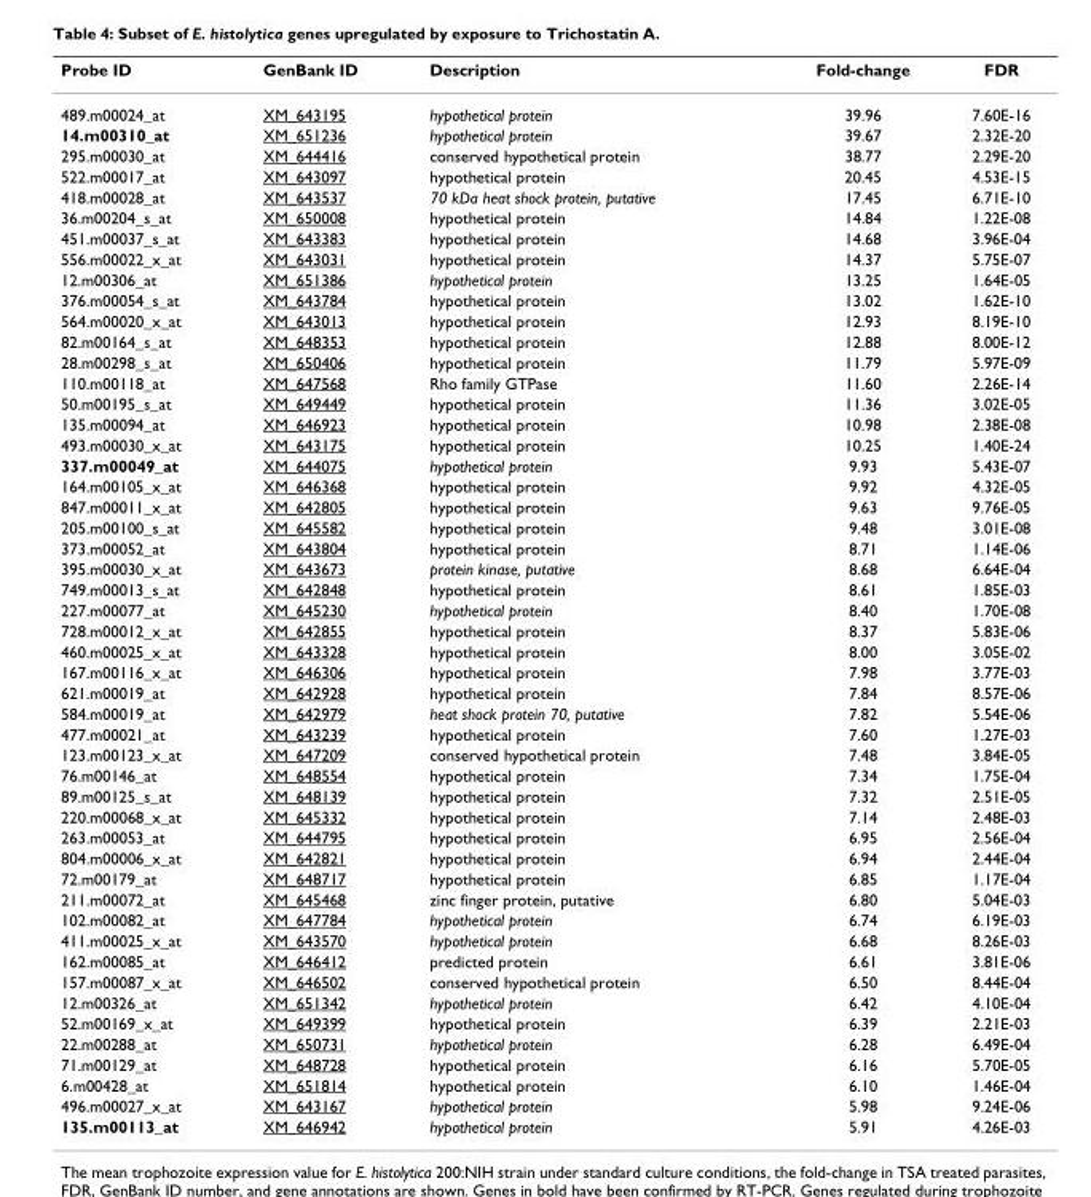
<table><thead><tr><td>Probe ID</td><td>GenBank ID</td><td>Description</td><td>Fold-change</td><td>FDR</td></tr></thead><tbody><tr><td>489.m00024_at</td><td>XM_643195</td><td>hypothetical protein</td><td>39.96</td><td>7.60E-16</td></tr><tr><td>14.m00310_at</td><td>XM_651236</td><td>hypothetical protein</td><td>39.67</td><td>2.32E-20</td></tr><tr><td>295.m00030_at</td><td>XM_644416</td><td>conserved hypothetical protein</td><td>38.77</td><td>2.29E-20</td></tr><tr><td>522.m00017_at</td><td>XM_643097</td><td>hypothetical protein</td><td>20.45</td><td>4.53E-15</td></tr><tr><td>418.m00028_at</td><td>XM_643537</td><td>70 kDa heat shock protein, putative</td><td>17.45</td><td>6.71E-10</td></tr><tr><td>36.m00204_s_at</td><td>XM_650008</td><td>hypothetical protein</td><td>14.84</td><td>1.22E-08</td></tr><tr><td>451.m00037_s_at</td><td>XM_643383</td><td>hypothetical protein</td><td>14.68</td><td>3.96E-04</td></tr><tr><td>556.m00022_x_at</td><td>XM_643031</td><td>hypothetical protein</td><td>14.37</td><td>5.75E-07</td></tr><tr><td>12.m00306_at</td><td>XM_651386</td><td>hypothetical protein</td><td>13.25</td><td>1.64E-05</td></tr><tr><td>376.m00054_s_at</td><td>XM_643784</td><td>hypothetical protein</td><td>13.02</td><td>1.62E-10</td></tr><tr><td>564.m00020_x_at</td><td>XM_643013</td><td>hypothetical protein</td><td>12.93</td><td>8.19E-10</td></tr><tr><td>82.m00164_s_at</td><td>XM_648353</td><td>hypothetical protein</td><td>12.88</td><td>8.00E-12</td></tr><tr><td>28.m00298_s_at</td><td>XM_650406</td><td>hypothetical protein</td><td>11.79</td><td>5.97E-09</td></tr><tr><td>110.m00118_at</td><td>XM_647568</td><td>Rho family GTPase</td><td>11.60</td><td>2.26E-14</td></tr><tr><td>50.m00195_s_at</td><td>XM_649449</td><td>hypothetical protein</td><td>11.36</td><td>3.02E-05</td></tr><tr><td>135.m00094_at</td><td>XM_646923</td><td>hypothetical protein</td><td>10.98</td><td>2.38E-08</td></tr><tr><td>493.m00030_x_at</td><td>XM_643175</td><td>hypothetical protein</td><td>10.25</td><td>1.40E-24</td></tr><tr><td>337.m00049_at</td><td>XM_644075</td><td>hypothetical protein</td><td>9.93</td><td>5.43E-07</td></tr><tr><td>164.m00105_x_at</td><td>XM_646368</td><td>hypothetical protein</td><td>9.92</td><td>4.32E-05</td></tr><tr><td>847.m00011_x_at</td><td>XM_642805</td><td>hypothetical protein</td><td>9.63</td><td>9.76E-05</td></tr><tr><td>205.m00100_s_at</td><td>XM_645582</td><td>hypothetical protein</td><td>9.48</td><td>3.01E-08</td></tr><tr><td>373.m00052_at</td><td>XM_643804</td><td>hypothetical protein</td><td>8.71</td><td>1.14E-06</td></tr><tr><td>395.m00030_x_at</td><td>XM_643673</td><td>protein kinase, putative</td><td>8.68</td><td>6.64E-04</td></tr><tr><td>749.m00013_s_at</td><td>XM_642848</td><td>hypothetical protein</td><td>8.61</td><td>1.85E-03</td></tr><tr><td>227.m00077_at</td><td>XM_645230</td><td>hypothetical protein</td><td>8.40</td><td>1.70E-08</td></tr><tr><td>728.m00012_x_at</td><td>XM_642855</td><td>hypothetical protein</td><td>8.37</td><td>5.83E-06</td></tr><tr><td>460.m00025_x_at</td><td>XM_643328</td><td>hypothetical protein</td><td>8.00</td><td>3.05E-02</td></tr><tr><td>167.m00116_x_at</td><td>XM_646306</td><td>hypothetical protein</td><td>7.98</td><td>3.77E-03</td></tr><tr><td>621.m00019_at</td><td>XM_642928</td><td>hypothetical protein</td><td>7.84</td><td>8.57E-06</td></tr><tr><td>584.m00019_at</td><td>XM_642979</td><td>heat shock protein 70, putative</td><td>7.82</td><td>5.54E-06</td></tr><tr><td>477.m00021_at</td><td>XM_643239</td><td>hypothetical protein</td><td>7.60</td><td>1.27E-03</td></tr><tr><td>123.m00123_x_at</td><td>XM_647209</td><td>conserved hypothetical protein</td><td>7.48</td><td>3.84E-05</td></tr><tr><td>76.m00146_at</td><td>XM_648554</td><td>hypothetical protein</td><td>7.34</td><td>1.75E-04</td></tr><tr><td>89.m00125_s_at</td><td>XM_648139</td><td>hypothetical protein</td><td>7.32</td><td>2.51E-05</td></tr><tr><td>220.m00068_x_at</td><td>XM_645332</td><td>hypothetical protein</td><td>7.14</td><td>2.48E-03</td></tr><tr><td>263.m00053_at</td><td>XM_644795</td><td>hypothetical protein</td><td>6.95</td><td>2.56E-04</td></tr><tr><td>804.m00006_x_at</td><td>XM_642821</td><td>hypothetical protein</td><td>6.94</td><td>2.44E-04</td></tr><tr><td>72.m00179_at</td><td>XM_648717</td><td>hypothetical protein</td><td>6.85</td><td>1.17E-04</td></tr><tr><td>211.m00072_at</td><td>XM_645468</td><td>zinc finger protein, putative</td><td>6.80</td><td>5.04E-03</td></tr><tr><td>102.m00082_at</td><td>XM_647784</td><td>hypothetical protein</td><td>6.74</td><td>6.19E-03</td></tr><tr><td>411.m00025_x_at</td><td>XM_643570</td><td>hypothetical protein</td><td>6.68</td><td>8.26E-03</td></tr><tr><td>162.m00085_at</td><td>XM_646412</td><td>predicted protein</td><td>6.61</td><td>3.81E-06</td></tr><tr><td>157.m00087_x_at</td><td>XM_646502</td><td>conserved hypothetical protein</td><td>6.50</td><td>8.44E-04</td></tr><tr><td>12.m00326_at</td><td>XM_651342</td><td>hypothetical protein</td><td>6.42</td><td>4.10E-04</td></tr><tr><td>52.m00169_x_at</td><td>XM_649399</td><td>hypothetical protein</td><td>6.39</td><td>2.21E-03</td></tr><tr><td>22.m00288_at</td><td>XM_650731</td><td>hypothetical protein</td><td>6.28</td><td>6.49E-04</td></tr><tr><td>71.m00129_at</td><td>XM_648728</td><td>hypothetical protein</td><td>6.16</td><td>5.70E-05</td></tr><tr><td>6.m00428_at</td><td>XM_651814</td><td>hypothetical protein</td><td>6.10</td><td>1.46E-04</td></tr><tr><td>496.m00027_x_at</td><td>XM_643167</td><td>hypothetical protein</td><td>5.98</td><td>9.24E-06</td></tr><tr><td>135.m00113_at</td><td>XM_646942</td><td>hypothetical protein</td><td>5.91</td><td>4.26E-03</td></tr></tbody></table>